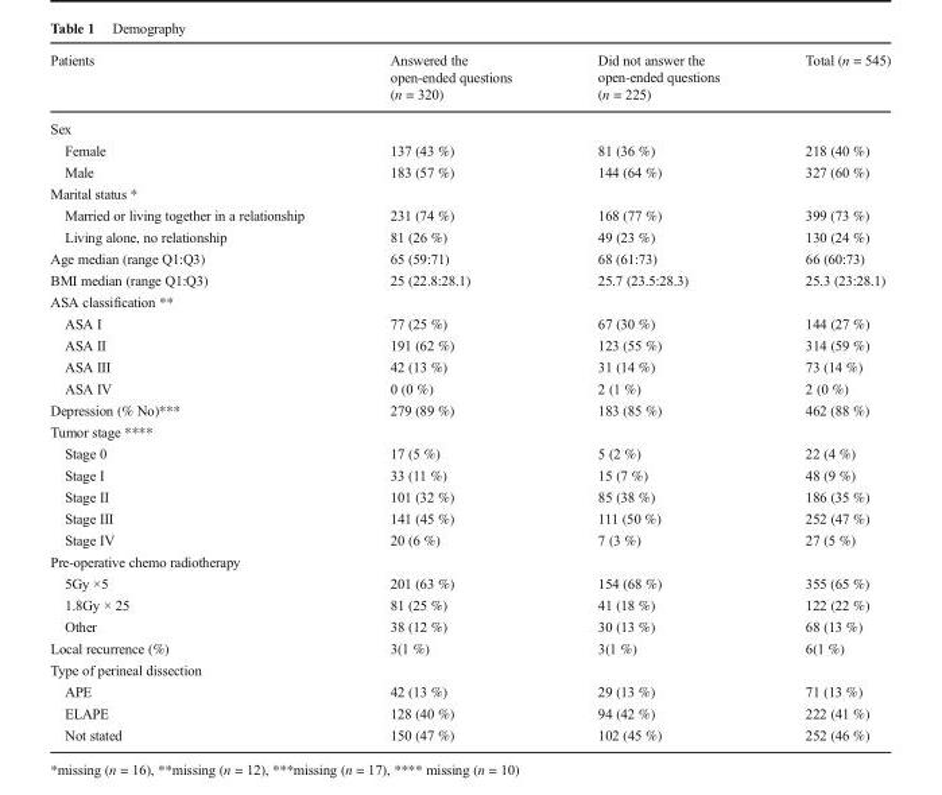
<table><thead><tr><td>Patients</td><td>Answered the open-ended questions (n = 320)</td><td>Did not answer the open-ended questions (n = 225)</td><td>Total (n = 545)</td></tr></thead><tbody><tr><td colspan="4">Sex</td></tr><tr><td>Female</td><td>137 (43 %)</td><td>81 (36 %)</td><td>218 (40 %)</td></tr><tr><td>Male</td><td>183 (57 %)</td><td>144 (64 %)</td><td>327 (60 %)</td></tr><tr><td colspan="4">Marital status *</td></tr><tr><td>Married or living together in a relationship</td><td>231 (74 %)</td><td>168 (77 %)</td><td>399 (73 %)</td></tr><tr><td>Living alone, no relationship</td><td>81 (26 %)</td><td>49 (23 %)</td><td>130 (24 %)</td></tr><tr><td>Age median (range Q1:Q3)</td><td>65 (59:71)</td><td>68 (61:73)</td><td>66 (60:73)</td></tr><tr><td>BMI median (range Q1:Q3)</td><td>25 (22.8:28.1)</td><td>25.7 (23.5:28.3)</td><td>25.3 (23:28.1)</td></tr><tr><td colspan="4">ASA classification **</td></tr><tr><td>ASA I</td><td>77 (25 %)</td><td>67 (30 %)</td><td>144 (27 %)</td></tr><tr><td>ASA II</td><td>191 (62 %)</td><td>123 (55 %)</td><td>314 (59 %)</td></tr><tr><td>ASA III</td><td>42 (13 %)</td><td>31 (14 %)</td><td>73 (14 %)</td></tr><tr><td>ASA IV</td><td>0 (0 %)</td><td>2 (1 %)</td><td>2 (0 %)</td></tr><tr><td>Depression (% No)***</td><td>279 (89 %)</td><td>183 (85 %)</td><td>462 (88 %)</td></tr><tr><td colspan="4">Tumor stage ****</td></tr><tr><td>Stage 0</td><td>17 (5 %)</td><td>5 (2 %)</td><td>22 (4 %)</td></tr><tr><td>Stage I</td><td>33 (11 %)</td><td>15 (7 %)</td><td>48 (9 %)</td></tr><tr><td>Stage II</td><td>101 (32 %)</td><td>85 (38 %)</td><td>186 (35 %)</td></tr><tr><td>Stage III</td><td>141 (45 %)</td><td>111 (50 %)</td><td>252 (47 %)</td></tr><tr><td>Stage IV</td><td>20 (6 %)</td><td>7 (3 %)</td><td>27 (5 %)</td></tr><tr><td colspan="4">Pre-operative chemo radiotherapy</td></tr><tr><td>5Gy ×5</td><td>201 (63 %)</td><td>154 (68 %)</td><td>355 (65 %)</td></tr><tr><td>1.8Gy × 25</td><td>81 (25 %)</td><td>41 (18 %)</td><td>122 (22 %)</td></tr><tr><td>Other</td><td>38 (12 %)</td><td>30 (13 %)</td><td>68 (13 %)</td></tr><tr><td>Local recurrence (%)</td><td>3(1 %)</td><td>3(1 %)</td><td>6(1 %)</td></tr><tr><td colspan="4">Type of perineal dissection</td></tr><tr><td>APE</td><td>42 (13 %)</td><td>29 (13 %)</td><td>71 (13 %)</td></tr><tr><td>ELAPE</td><td>128 (40 %)</td><td>94 (42 %)</td><td>222 (41 %)</td></tr><tr><td>Not stated</td><td>150 (47 %)</td><td>102 (45 %)</td><td>252 (46 %)</td></tr></tbody></table>